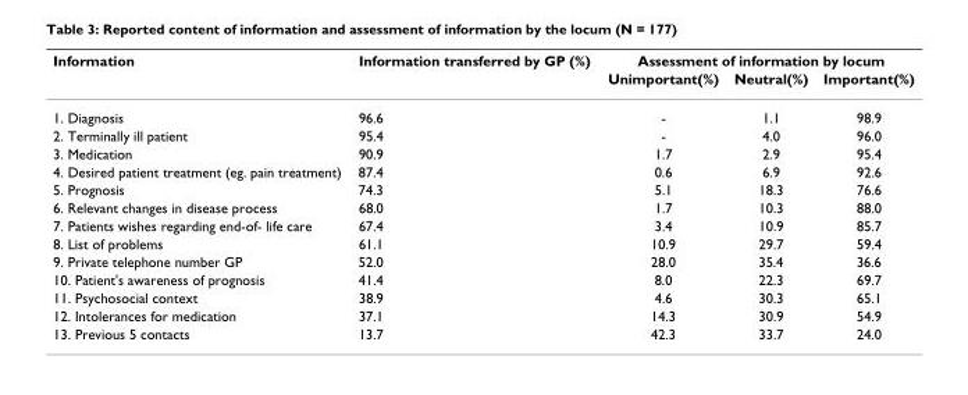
<table><thead><tr><td rowspan="2">Information</td><td rowspan="2">Information transferred by GP (%)</td><td colspan="3">Assessment of information by locum</td></tr><tr><td>Unimportant(%)</td><td>Neutral(%)</td><td>Important(%)</td></tr></thead><tbody><tr><td>1. Diagnosis</td><td>96.6</td><td>-</td><td>1.1</td><td>98.9</td></tr><tr><td>2. Terminally ill patient</td><td>95.4</td><td>-</td><td>4.0</td><td>96.0</td></tr><tr><td>3. Medication</td><td>90.9</td><td>1.7</td><td>2.9</td><td>95.4</td></tr><tr><td>4. Desired patient treatment (eg. pain treatment)</td><td>87.4</td><td>0.6</td><td>6.9</td><td>92.6</td></tr><tr><td>5. Prognosis</td><td>74.3</td><td>5.1</td><td>18.3</td><td>76.6</td></tr><tr><td>6. Relevant changes in disease process</td><td>68.0</td><td>1.7</td><td>10.3</td><td>88.0</td></tr><tr><td>7. Patients wishes regarding end-of- life care</td><td>67.4</td><td>3.4</td><td>10.9</td><td>85.7</td></tr><tr><td>8. List of problems</td><td>61.1</td><td>10.9</td><td>29.7</td><td>59.4</td></tr><tr><td>9. Private telephone number GP</td><td>52.0</td><td>28.0</td><td>35.4</td><td>36.6</td></tr><tr><td>10. Patient&#x27;s awareness of prognosis</td><td>41.4</td><td>8.0</td><td>22.3</td><td>69.7</td></tr><tr><td>11. Psychosocial context</td><td>38.9</td><td>4.6</td><td>30.3</td><td>65.1</td></tr><tr><td>12. Intolerances for medication</td><td>37.1</td><td>14.3</td><td>30.9</td><td>54.9</td></tr><tr><td>13. Previous 5 contacts</td><td>13.7</td><td>42.3</td><td>33.7</td><td>24.0</td></tr></tbody></table>